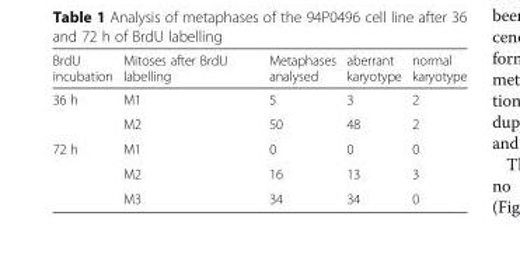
<table><thead><tr><td>BrdU incubation</td><td>Mitoses after BrdU labelling</td><td>Metaphases analysed</td><td>aberrant karyotype</td><td>normal karyotype</td></tr></thead><tbody><tr><td rowspan="2">36 h</td><td>M1</td><td>5</td><td>3</td><td>2</td></tr><tr><td>M2</td><td>50</td><td>48</td><td>2</td></tr><tr><td rowspan="3">72 h</td><td>M1</td><td>0</td><td>0</td><td>0</td></tr><tr><td>M2</td><td>16</td><td>13</td><td>3</td></tr><tr><td>M3</td><td>34</td><td>34</td><td>0</td></tr></tbody></table>